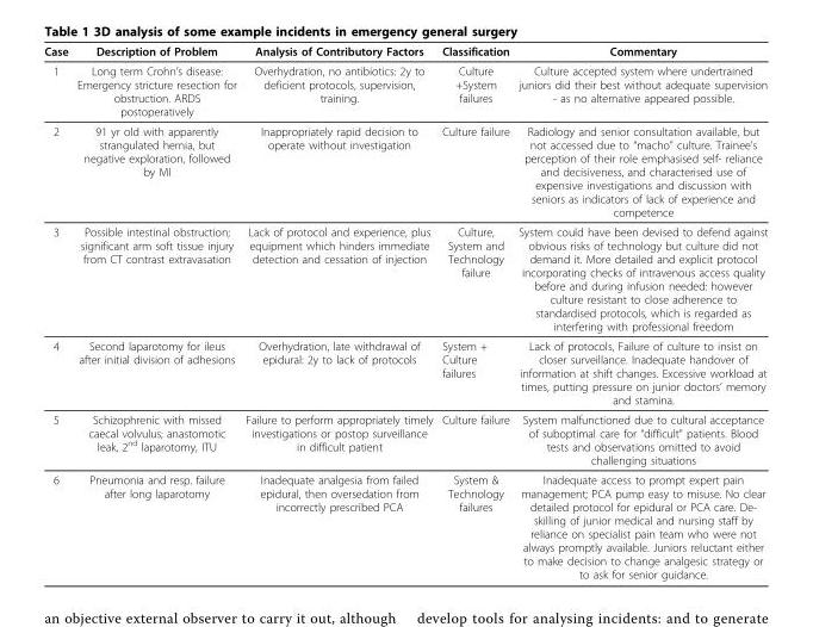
<table><thead><tr><td>Case</td><td>Description of Problem</td><td>Analysis of Contributory Factors</td><td>Classification</td><td>Commentary</td></tr></thead><tbody><tr><td>1</td><td>Long term Crohn’s disease: Emergency stricture resection for obstruction. ARDS postoperatively</td><td>Overhydration, no antibiotics: 2y to deficient protocols, supervision, training.</td><td>Culture +System failures</td><td>Culture accepted system where undertrained juniors did their best without adequate supervision - as no alternative appeared possible.</td></tr><tr><td>2</td><td>91 yr old with apparently strangulated hernia, but negative exploration, followed by MI</td><td>Inappropriately rapid decision to operate without investigation</td><td>Culture failure</td><td>Radiology and senior consultation available, but not accessed due to “macho” culture. Trainee’s perception of their role emphasised self- reliance and decisiveness, and characterised use of expensive investigations and discussion with seniors as indicators of lack of experience and competence</td></tr><tr><td>3</td><td>Possible intestinal obstruction; significant arm soft tissue injury from CT contrast extravasation</td><td>Lack of protocol and experience, plus equipment which hinders immediate detection and cessation of injection</td><td>Culture, System and Technology failure</td><td>System could have been devised to defend against obvious risks of technology but culture did not demand it. More detailed and explicit protocol incorporating checks of intravenous access quality before and during infusion needed: however culture resistant to close adherence to standardised protocols, which is regarded as interfering with professional freedom</td></tr><tr><td>4</td><td>Second laparotomy for ileus after initial division of adhesions</td><td>Overhydration, late withdrawal of epidural: 2y to lack of protocols</td><td>System + Culture failures</td><td>Lack of protocols, Failure of culture to insist on closer surveillance. Inadequate handover of information at shift changes. Excessive workload at times, putting pressure on junior doctors’ memory and stamina.</td></tr><tr><td>5</td><td>Schizophrenic with missed caecal volvulus; anastomotic leak, 2<sup>nd</sup> laparotomy, ITU</td><td>Failure to perform appropriately timely investigations or postop surveillance in difficult patient</td><td>Culture failure</td><td>System malfunctioned due to cultural acceptance of suboptimal care for “difficult” patients. Blood tests and observations omitted to avoid challenging situations</td></tr><tr><td>6</td><td>Pneumonia and resp. failure after long laparotomy</td><td>Inadequate analgesia from failed epidural, then oversedation from incorrectly prescribed PCA</td><td>System &amp; Technology failures</td><td>Inadequate access to prompt expert pain management; PCA pump easy to misuse. No clear detailed protocol for epidural or PCA care. De- skilling of junior medical and nursing staff by reliance on specialist pain team who were not always promptly available. Juniors reluctant either to make decision to change analgesic strategy or to ask for senior guidance.</td></tr></tbody></table>